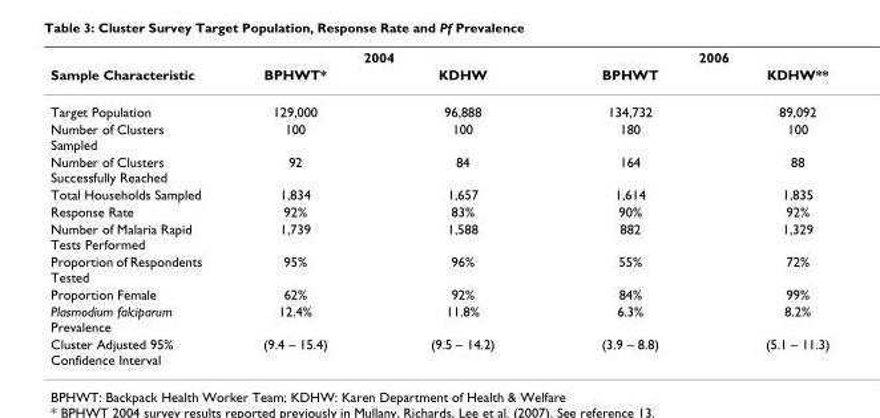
<table><thead><tr><td rowspan="2">Sample Characteristic</td><td colspan="2">2004</td><td colspan="2">2006</td></tr><tr><td>BPHWT*</td><td>KDHW</td><td>BPHWT</td><td>KDHW**</td></tr></thead><tbody><tr><td>Target Population</td><td>129,000</td><td>96,888</td><td>134,732</td><td>89,092</td></tr><tr><td>Number of Clusters Sampled</td><td>100</td><td>100</td><td>180</td><td>100</td></tr><tr><td>Number of Clusters Successfully Reached</td><td>92</td><td>84</td><td>164</td><td>88</td></tr><tr><td>Total Households Sampled</td><td>1,834</td><td>1,657</td><td>1,614</td><td>1,835</td></tr><tr><td>Response Rate</td><td>92%</td><td>83%</td><td>90%</td><td>92%</td></tr><tr><td>Number of Malaria Rapid Tests Performed</td><td>1,739</td><td>1,588</td><td>882</td><td>1,329</td></tr><tr><td>Proportion of Respondents Tested</td><td>95%</td><td>96%</td><td>55%</td><td>72%</td></tr><tr><td>Proportion Female</td><td>62%</td><td>92%</td><td>84%</td><td>99%</td></tr><tr><td>Plasmodium falciparum Prevalence</td><td>12.4%</td><td>11.8%</td><td>6.3%</td><td>8.2%</td></tr><tr><td>Cluster Adjusted 95% Confidence Interval</td><td>(9.4 – 15.4)</td><td>(9.5 – 14.2)</td><td>(3.9 – 8.8)</td><td>(5.1 – 11.3)</td></tr></tbody></table>